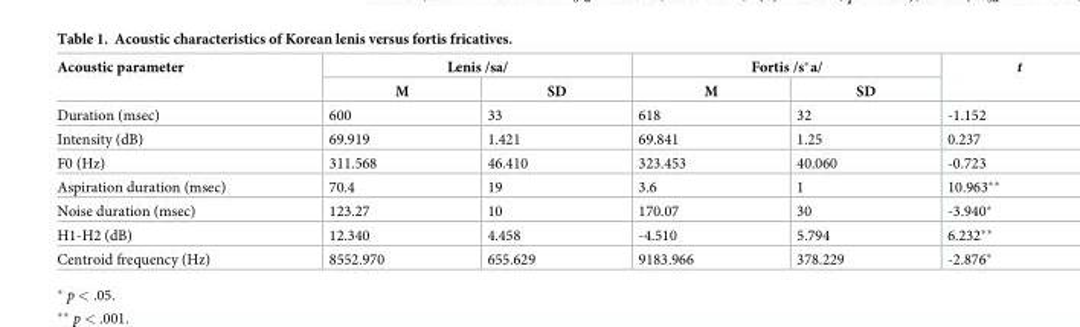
<table><thead><tr><td rowspan="2">Acoustic parameter</td><td colspan="2">Lenis /sa/</td><td colspan="2">Fortis /s*a/</td><td rowspan="2">t</td></tr><tr><td>M</td><td>SD</td><td>M</td><td>SD</td></tr></thead><tbody><tr><td>Duration (msec)</td><td>600</td><td>33</td><td>618</td><td>32</td><td>-1.152</td></tr><tr><td>Intensity (dB)</td><td>69.919</td><td>1.421</td><td>69.841</td><td>1.25</td><td>0.237</td></tr><tr><td>F0 (Hz)</td><td>311.568</td><td>46.410</td><td>323.453</td><td>40.060</td><td>-0.723</td></tr><tr><td>Aspiration duration (msec)</td><td>70.4</td><td>19</td><td>3.6</td><td>1</td><td>10.963**</td></tr><tr><td>Noise duration (msec)</td><td>123.27</td><td>10</td><td>170.07</td><td>30</td><td>-3.940*</td></tr><tr><td>H1-H2 (dB)</td><td>12.340</td><td>4.458</td><td>-4.510</td><td>5.794</td><td>6.232**</td></tr><tr><td>Centroid frequency (Hz)</td><td>8552.970</td><td>655.629</td><td>9183.966</td><td>378.229</td><td>-2.876*</td></tr></tbody></table>